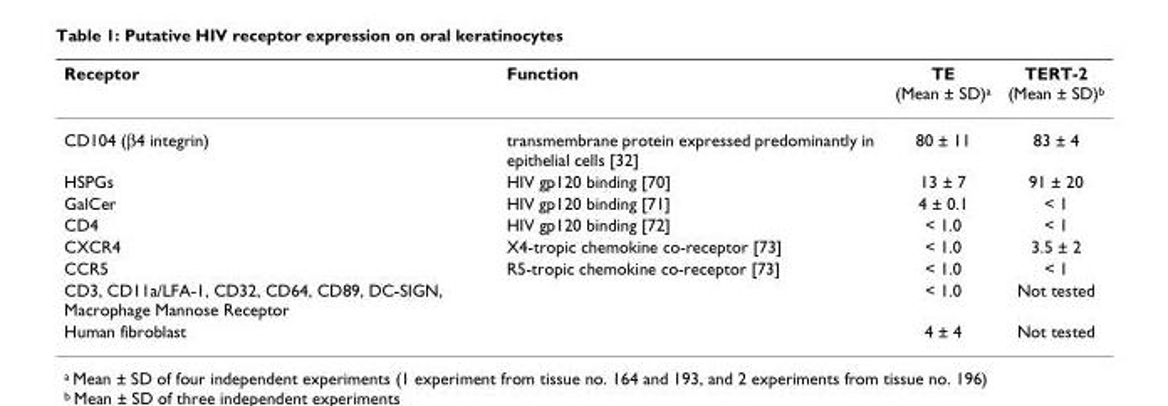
<table><thead><tr><td>Receptor</td><td>Function</td><td>TE (Mean ± SD)<sup>a</sup></td><td>TERT-2 (Mean ± SD)<sup>b</sup></td></tr></thead><tbody><tr><td>CD104 (β4 integrin)</td><td>transmembrane protein expressed predominantly in epithelial cells [32]</td><td>80 ± 11</td><td>83 ± 4</td></tr><tr><td>HSPGs</td><td>HIV gp120 binding [70]</td><td>13 ± 7</td><td>91 ± 20</td></tr><tr><td>GalCer</td><td>HIV gp120 binding [71]</td><td>4 ± 0.1</td><td>&lt; 1</td></tr><tr><td>CD4</td><td>HIV gp120 binding [72]</td><td>&lt; 1.0</td><td>&lt; 1</td></tr><tr><td>CXCR4</td><td>X4-tropic chemokine co-receptor [73]</td><td>&lt; 1.0</td><td>3.5 ± 2</td></tr><tr><td>CCR5</td><td>R5-tropic chemokine co-receptor [73]</td><td>&lt; 1.0</td><td>&lt; 1</td></tr><tr><td>CD3, CD11a/LFA-1, CD32, CD64, CD89, DC-SIGN, Macrophage Mannose Receptor</td><td></td><td>&lt; 1.0</td><td>Not tested</td></tr><tr><td>Human fibroblast</td><td></td><td>4 ± 4</td><td>Not tested</td></tr></tbody></table>